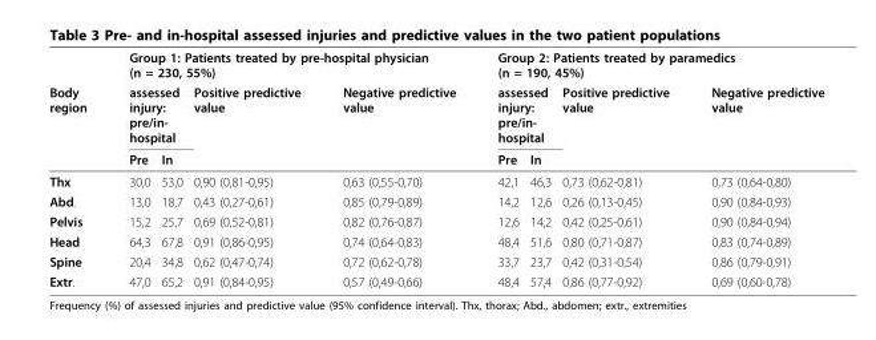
<table><thead><tr><td rowspan="3">Body region</td><td colspan="4">Group 1: Patients treated by pre-hospital physician (n = 230, 55%)</td><td colspan="4">Group 2: Patients treated by paramedics (n = 190, 45%)</td></tr><tr><td colspan="2">assessed injury: pre/in- hospital</td><td rowspan="2">Positive predictive value</td><td rowspan="2">Negative predictive value</td><td colspan="2">assessed injury: pre/in- hospital</td><td rowspan="2">Positive predictive value</td><td rowspan="2">Negative predictive value</td></tr><tr><td>Pre</td><td>In</td><td>Pre</td><td>In</td></tr></thead><tbody><tr><td>Thx</td><td>30,0</td><td>53,0</td><td>0,90 (0,81-0,95)</td><td>0,63 (0,55-0,70)</td><td>42,1</td><td>46,3</td><td>0,73 (0,62-0,81)</td><td>0,73 (0,64-0,80)</td></tr><tr><td>Abd.</td><td>13,0</td><td>18,7</td><td>0,43 (0,27-0,61)</td><td>0,85 (0,79-0,89)</td><td>14,2</td><td>12,6</td><td>0,26 (0,13-0,45)</td><td>0,90 (0,84-0,93)</td></tr><tr><td>Pelvis</td><td>15,2</td><td>25,7</td><td>0,69 (0,52-0,81)</td><td>0,82 (0,76-0,87)</td><td>12,6</td><td>14,2</td><td>0,42 (0,25-0,61)</td><td>0,90 (0,84-0,94)</td></tr><tr><td>Head</td><td>64,3</td><td>67,8</td><td>0,91 (0,86-0,95)</td><td>0,74 (0,64-0,83)</td><td>48,4</td><td>51,6</td><td>0,80 (0,71-0,87)</td><td>0,83 (0,74-0,89)</td></tr><tr><td>Spine</td><td>20,4</td><td>34,8</td><td>0,62 (0,47-0,74)</td><td>0,72 (0,62-0,78)</td><td>33,7</td><td>23,7</td><td>0,42 (0,31-0,54)</td><td>0,86 (0,79-0,91)</td></tr><tr><td>Extr.</td><td>47,0</td><td>65,2</td><td>0,91 (0,84-0,95)</td><td>0,57 (0,49-0,66)</td><td>48,4</td><td>57,4</td><td>0,86 (0,77-0,92)</td><td>0,69 (0,60-0,78)</td></tr></tbody></table>